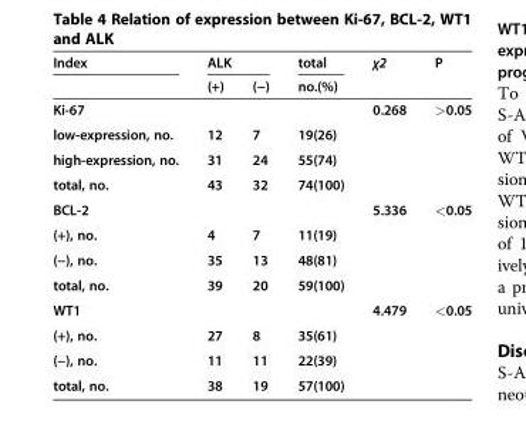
<table><thead><tr><td rowspan="2">Index</td><td colspan="2">ALK</td><td rowspan="2">total no.(%)</td><td rowspan="2">χ2</td><td rowspan="2">P</td></tr><tr><td>(+)</td><td>(−)</td></tr></thead><tbody><tr><td>Ki-67</td><td></td><td></td><td></td><td>0.268</td><td>&gt;0.05</td></tr><tr><td>low-expression, no.</td><td>12</td><td>7</td><td>19(26)</td><td></td><td></td></tr><tr><td>high-expression, no.</td><td>31</td><td>24</td><td>55(74)</td><td></td><td></td></tr><tr><td>total, no.</td><td>43</td><td>32</td><td>74(100)</td><td></td><td></td></tr><tr><td>BCL-2</td><td></td><td></td><td></td><td>5.336</td><td>&lt;0.05</td></tr><tr><td>(+), no.</td><td>4</td><td>7</td><td>11(19)</td><td></td><td></td></tr><tr><td>(−), no.</td><td>35</td><td>13</td><td>48(81)</td><td></td><td></td></tr><tr><td>total, no.</td><td>39</td><td>20</td><td>59(100)</td><td></td><td></td></tr><tr><td>WT1</td><td></td><td></td><td></td><td>4.479</td><td>&lt;0.05</td></tr><tr><td>(+), no.</td><td>27</td><td>8</td><td>35(61)</td><td></td><td></td></tr><tr><td>(−), no.</td><td>11</td><td>11</td><td>22(39)</td><td></td><td></td></tr><tr><td>total, no.</td><td>38</td><td>19</td><td>57(100)</td><td></td><td></td></tr></tbody></table>